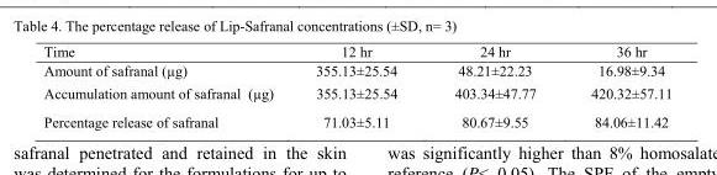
<table><thead><tr><td>Time</td><td>12 hr</td><td>24 hr</td><td>36 hr</td></tr></thead><tbody><tr><td>Amount of safranal (µg)</td><td>355.13±25.54</td><td>48.21±22.23</td><td>16.98±9.34</td></tr><tr><td>Accumulation amount of safranal (µg)</td><td>355.13±25.54</td><td>403.34±47.77</td><td>420.32±57.11</td></tr><tr><td>Percentage release of safranal</td><td>71.03±5.11</td><td>80.67±9.55</td><td>84.06±11.42</td></tr></tbody></table>